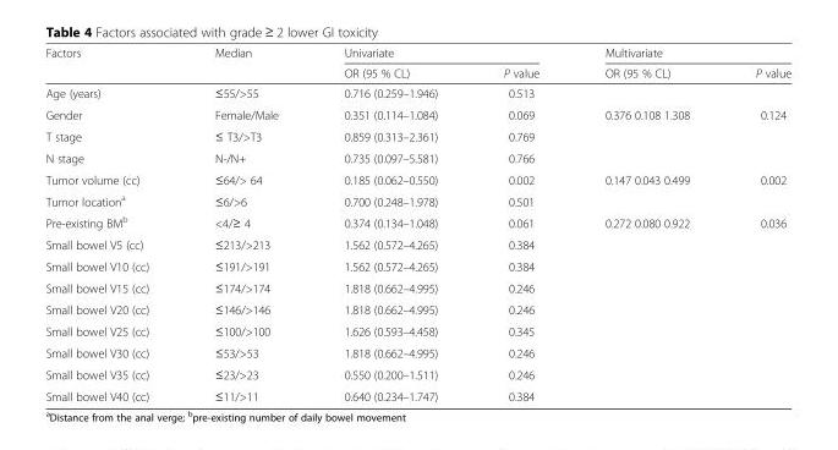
<table><thead><tr><td rowspan="2">Factors</td><td rowspan="2">Median</td><td colspan="2">Univariate</td><td colspan="2">Multivariate</td></tr><tr><td>OR (95 % CL)</td><td>P value</td><td>OR (95 % CL)</td><td>P value</td></tr></thead><tbody><tr><td>Age (years)</td><td>≤55/&gt;55</td><td>0.716 (0.259–1.946)</td><td>0.513</td><td></td><td></td></tr><tr><td>Gender</td><td>Female/Male</td><td>0.351 (0.114–1.084)</td><td>0.069</td><td>0.376 0.108 1.308</td><td>0.124</td></tr><tr><td>T stage</td><td>≤ T3/&gt;T3</td><td>0.859 (0.313–2.361)</td><td>0.769</td><td></td><td></td></tr><tr><td>N stage</td><td>N-/N+</td><td>0.735 (0.097–5.581)</td><td>0.766</td><td></td><td></td></tr><tr><td>Tumor volume (cc)</td><td>≤64/&gt; 64</td><td>0.185 (0.062–0.550)</td><td>0.002</td><td>0.147 0.043 0.499</td><td>0.002</td></tr><tr><td>Tumor location<sup>a</sup></td><td>≤6/&gt;6</td><td>0.700 (0.248–1.978)</td><td>0.501</td><td></td><td></td></tr><tr><td>Pre-existing BM<sup>b</sup></td><td>&lt;4/≥ 4</td><td>0.374 (0.134–1.048)</td><td>0.061</td><td>0.272 0.080 0.922</td><td>0.036</td></tr><tr><td>Small bowel V5 (cc)</td><td>≤213/&gt;213</td><td>1.562 (0.572–4.265)</td><td>0.384</td><td></td><td></td></tr><tr><td>Small bowel V10 (cc)</td><td>≤191/&gt;191</td><td>1.562 (0.572–4.265)</td><td>0.384</td><td></td><td></td></tr><tr><td>Small bowel V15 (cc)</td><td>≤174/&gt;174</td><td>1.818 (0.662–4.995)</td><td>0.246</td><td></td><td></td></tr><tr><td>Small bowel V20 (cc)</td><td>≤146/&gt;146</td><td>1.818 (0.662–4.995)</td><td>0.246</td><td></td><td></td></tr><tr><td>Small bowel V25 (cc)</td><td>≤100/&gt;100</td><td>1.626 (0.593–4.458)</td><td>0.345</td><td></td><td></td></tr><tr><td>Small bowel V30 (cc)</td><td>≤53/&gt;53</td><td>1.818 (0.662–4.995)</td><td>0.246</td><td></td><td></td></tr><tr><td>Small bowel V35 (cc)</td><td>≤23/&gt;23</td><td>0.550 (0.200–1.511)</td><td>0.246</td><td></td><td></td></tr><tr><td>Small bowel V40 (cc)</td><td>≤11/&gt;11</td><td>0.640 (0.234–1.747)</td><td>0.384</td><td></td><td></td></tr></tbody></table>